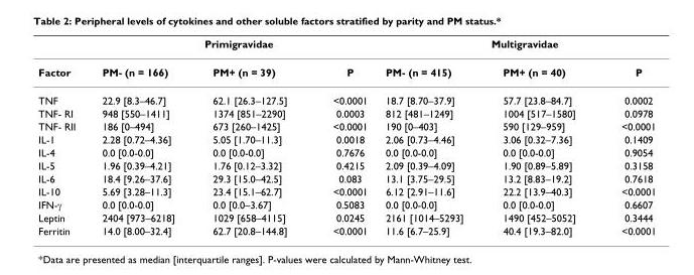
<table><thead><tr><td rowspan="2">Factor</td><td colspan="3">Primigravidae</td><td colspan="3">Multigravidae</td></tr><tr><td>PM- (n = 166)</td><td>PM+ (n = 39)</td><td>P</td><td>PM- (n = 415)</td><td>PM+ (n = 40)</td><td>P</td></tr></thead><tbody><tr><td>TNF</td><td>22.9 [8.3–46.7]</td><td>62.1 [26.3–127.5]</td><td>&lt;0.0001</td><td>18.7 [8.70–37.9]</td><td>57.7 [23.8–84.7]</td><td>0.0002</td></tr><tr><td>TNF- RI</td><td>948 [550–1411]</td><td>1374 [851–2290]</td><td>0.0003</td><td>812 [481–1249]</td><td>1004 [517–1580]</td><td>0.0978</td></tr><tr><td>TNF- RII</td><td>186 [0–494]</td><td>673 [260–1425]</td><td>&lt;0.0001</td><td>190 [0–403]</td><td>590 [129–959]</td><td>&lt;0.0001</td></tr><tr><td>IL-1</td><td>2.28 [0.72–4.36]</td><td>5.05 [1.70–11.3]</td><td>0.0018</td><td>2.06 [0.73–4.46]</td><td>3.06 [0.32–7.36]</td><td>0.1409</td></tr><tr><td>IL-4</td><td>0.0 [0.0-0.0]</td><td>0.0 [0.0-0.0]</td><td>0.7676</td><td>0.0 [0.0-0.0]</td><td>0.0 [0.0-0.0]</td><td>0.9054</td></tr><tr><td>IL-5</td><td>1.96 [0.39–4.21]</td><td>1.76 [0.12–3.32]</td><td>0.4215</td><td>2.09 [0.39–4.09]</td><td>1.90 [0.89–5.89]</td><td>0.3158</td></tr><tr><td>IL-6</td><td>18.4 [9.26–37.6]</td><td>29.3 [15.0–42.5]</td><td>0.083</td><td>13.1 [3.75–29.5]</td><td>13.2 [8.83–19.2]</td><td>0.7618</td></tr><tr><td>IL-10</td><td>5.69 [3.28–11.3]</td><td>23.4 [15.1–62.7]</td><td>&lt;0.0001</td><td>6.12 [2.91–11.6]</td><td>22.2 [13.9–40.3]</td><td>&lt;0.0001</td></tr><tr><td>IFN-γ</td><td>0.0 [0.0-0.0]</td><td>0.0 [0.0–3.67]</td><td>0.5083</td><td>0.0 [0.0-0.0]</td><td>0.0 [0.0-0.0]</td><td>0.6607</td></tr><tr><td>Leptin</td><td>2404 [973–6218]</td><td>1029 [658–4115]</td><td>0.0245</td><td>2161 [1014–5293]</td><td>1490 [452–5052]</td><td>0.3444</td></tr><tr><td>Ferritin</td><td>14.0 [8.00–32.4]</td><td>62.7 [20.8–144.8]</td><td>&lt;0.0001</td><td>11.6 [6.7–25.9]</td><td>40.4 [19.3–82.0]</td><td>&lt;0.0001</td></tr></tbody></table>